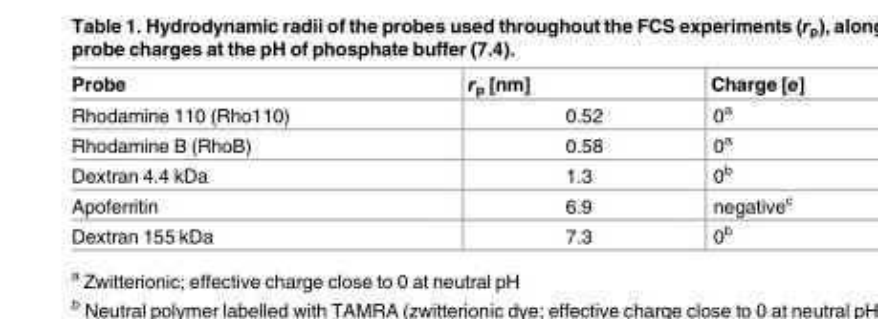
<table><thead><tr><td>Probe</td><td>r<sub>p</sub> [nm]</td><td>Charge [e]</td></tr></thead><tbody><tr><td>Rhodamine 110 (Rho110)</td><td>0.52</td><td>0<sup>a</sup></td></tr><tr><td>Rhodamine B (RhoB)</td><td>0.58</td><td>0<sup>a</sup></td></tr><tr><td>Dextran 4.4 kDa</td><td>1.3</td><td>0<sup>b</sup></td></tr><tr><td>Apoferritin</td><td>6.9</td><td>negative<sup>c</sup></td></tr><tr><td>Dextran 155 kDa</td><td>7.3</td><td>0<sup>b</sup></td></tr></tbody></table>